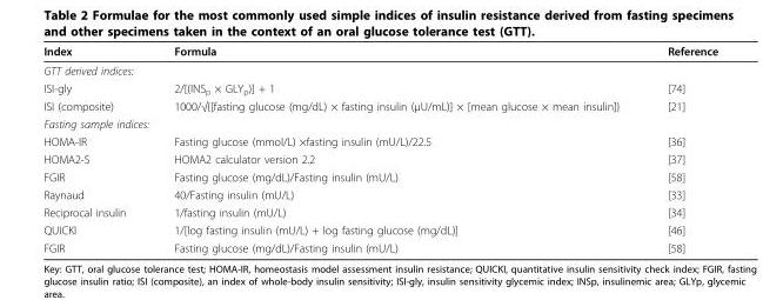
<table><thead><tr><td>Index</td><td>Formula</td><td>Reference</td></tr></thead><tbody><tr><td colspan="3">GTT derived indices:</td></tr><tr><td>ISI-gly</td><td>2/[(INS<sub>p</sub> × GLY<sub>p</sub>)] + 1</td><td>[74]</td></tr><tr><td>ISI (composite)</td><td>1000/√{[fasting glucose (mg/dL) × fasting insulin (μU/mL)] × [mean glucose × mean insulin]}</td><td>[21]</td></tr><tr><td colspan="3">Fasting sample indices:</td></tr><tr><td>HOMA-IR</td><td>Fasting glucose (mmol/L) ×fasting insulin (mU/L)/22.5</td><td>[36]</td></tr><tr><td>HOMA2-S</td><td>HOMA2 calculator version 2.2</td><td>[37]</td></tr><tr><td>FGIR</td><td>Fasting glucose (mg/dL)/Fasting insulin (mU/L)</td><td>[58]</td></tr><tr><td>Raynaud</td><td>40/Fasting insulin (mU/L)</td><td>[33]</td></tr><tr><td>Reciprocal insulin</td><td>1/fasting insulin (mU/L)</td><td>[34]</td></tr><tr><td>QUICKI</td><td>1/[log fasting insulin (mU/L) + log fasting glucose (mg/dL)]</td><td>[46]</td></tr><tr><td>FGIR</td><td>Fasting glucose (mg/dL)/Fasting insulin (mU/L)</td><td>[58]</td></tr></tbody></table>